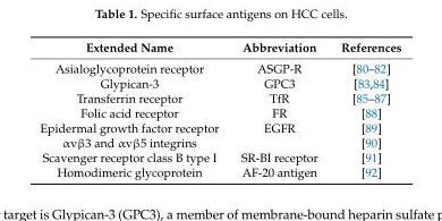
<table><thead><tr><td>Extended Name</td><td>Abbreviation</td><td>References</td></tr></thead><tbody><tr><td>Asialoglycoprotein receptor</td><td>ASGP-R</td><td>[80–82]</td></tr><tr><td>Glypican-3</td><td>GPC3</td><td>[83,84]</td></tr><tr><td>Transferrin receptor</td><td>TfR</td><td>[85–87]</td></tr><tr><td>Folic acid receptor</td><td>FR</td><td>[88]</td></tr><tr><td>Epidermal growth factor receptor</td><td>EGFR</td><td>[89]</td></tr><tr><td>αvβ3 and αvβ5 integrins</td><td></td><td>[90]</td></tr><tr><td>Scavenger receptor class B type I</td><td>SR-BI receptor</td><td>[91]</td></tr><tr><td>Homodimeric glycoprotein</td><td>AF-20 antigen</td><td>[92]</td></tr></tbody></table>